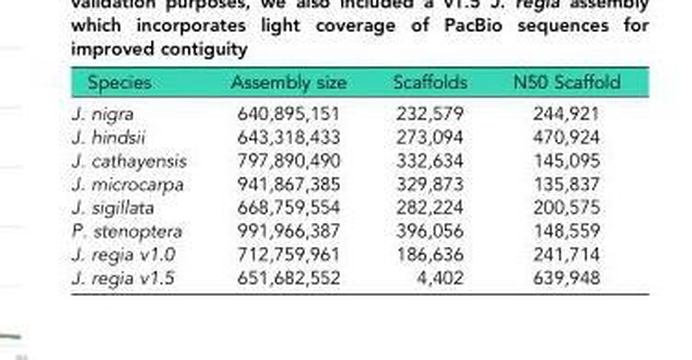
<table><thead><tr><td>Species</td><td>Assembly size</td><td>Scaffolds</td><td>N50 Scaffold</td></tr></thead><tbody><tr><td>J. nigra</td><td>640,895,151</td><td>232,579</td><td>244,921</td></tr><tr><td>J. hindsii</td><td>643,318,433</td><td>273,094</td><td>470,924</td></tr><tr><td>J. cathayensis</td><td>797,890,490</td><td>332,634</td><td>145,095</td></tr><tr><td>J. microcarpa</td><td>941,867,385</td><td>329,873</td><td>135,837</td></tr><tr><td>J. sigillata</td><td>668,759,554</td><td>282,224</td><td>200,575</td></tr><tr><td>P. stenoptera</td><td>991,966,387</td><td>396,056</td><td>148,559</td></tr><tr><td>J. regia v1.0</td><td>712,759,961</td><td>186,636</td><td>241,714</td></tr><tr><td>J. regia v1.5</td><td>651,682,552</td><td>4,402</td><td>639,948</td></tr></tbody></table>